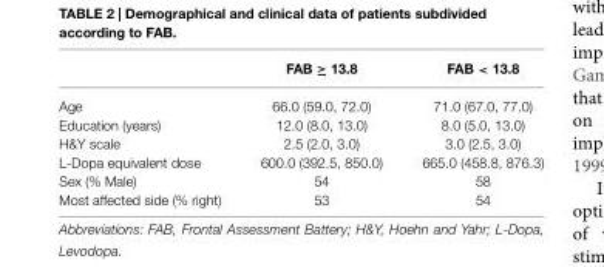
<table><thead><tr><td></td><td>FAB ≥ 13.8</td><td>FAB &lt; 13.8</td></tr></thead><tbody><tr><td>Age</td><td>66.0 (59.0, 72.0)</td><td>71.0 (67.0, 77.0)</td></tr><tr><td>Education (years)</td><td>12.0 (8.0, 13.0)</td><td>8.0 (5.0, 13.0)</td></tr><tr><td>H&amp;Y scale</td><td>2.5 (2.0, 3.0)</td><td>3.0 (2.5, 3.0)</td></tr><tr><td>L-Dopa equivalent dose</td><td>600.0 (392.5, 850.0)</td><td>665.0 (458.8, 876.3)</td></tr><tr><td>Sex (% Male)</td><td>54</td><td>58</td></tr><tr><td>Most affected side (% right)</td><td>53</td><td>54</td></tr></tbody></table>